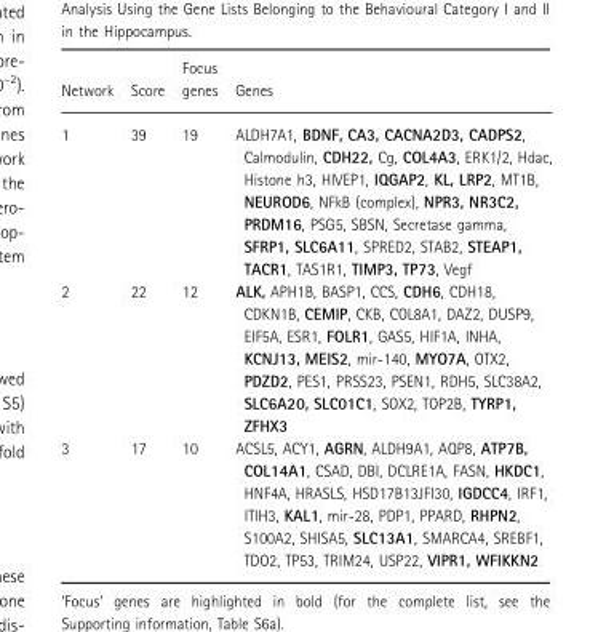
<table><thead><tr><td>Network</td><td>Score</td><td>Focus genes</td><td>Genes</td></tr></thead><tbody><tr><td>1</td><td>39</td><td>19</td><td>ALDH7A1, BDNF, CA3, CACNA2D3, CADPS2, Calmodulin, CDH22, Cg, COL4A3, ERK1/2, Hdac, Histone h3, HIVEP1, IQGAP2, KL, LRP2, MT1B, NEUROD6, NFkB (complex), NPR3, NR3C2, PRDM16, PSG5, SBSN, Secretase gamma, SFRP1, SLC6A11, SPRED2, STAB2, STEAP1, TACR1, TAS1R1, TIMP3, TP73, Vegf</td></tr><tr><td>2</td><td>22</td><td>12</td><td>ALK, APH1B, BASP1, CCS, CDH6, CDH18, CDKN1B, CEMIP, CKB, COL8A1, DAZ2, DUSP9, EIF5A, ESR1, FOLR1, GAS5, HIF1A, INHA, KCNJ13, MEIS2, mir-140, MYO7A, OTX2, PDZD2, PES1, PRSS23, PSEN1, RDH5, SLC38A2, SLC6A20, SLC01C1, SOX2, TOP2B, TYRP1, ZFHX3</td></tr><tr><td>3</td><td>17</td><td>10</td><td>ACSL5, ACY1, AGRN, ALDH9A1, AQP8, ATP7B, COL14A1, CSAD, DBI, DCLRE1A, FASN, HKDC1, HNF4A, HRASLS, HSD17B13JFI30, IGDCC4, IRF1, ITIH3, KAL1, mir-28, PDP1, PPARD, RHPN2, S100A2, SHISA5, SLC13A1, SMARCA4, SREBF1, TDO2, TP53, TRIM24, USP22, VIPR1, WFIKKN2</td></tr></tbody></table>